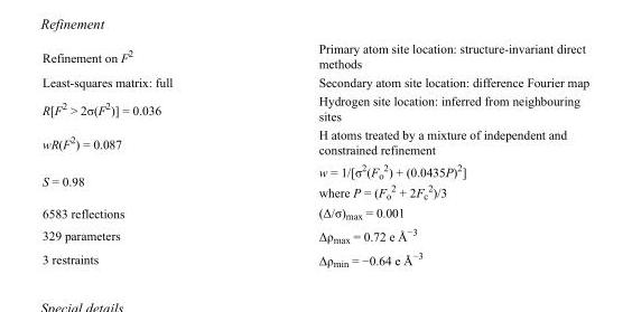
<table><tbody><tr><td>Refinement on F<sup>2</sup></td><td>Primary atom site location: structure-invariant direct methods</td></tr><tr><td>Least-squares matrix: full</td><td>Secondary atom site location: difference Fourier map</td></tr><tr><td>R[F<sup>2</sup> &gt; 2σ(F<sup>2</sup>)] = 0.036</td><td>Hydrogen site location: inferred from neighbouring sites</td></tr><tr><td>wR(F<sup>2</sup>) = 0.087</td><td>H atoms treated by a mixture of independent and constrained refinement</td></tr><tr><td>S = 0.98</td><td>w = 1/[σ<sup>2</sup>(F<sub>o</sub> <sup>2</sup>) + (0.0435P)<sup>2</sup>] where P = (F<sub>o</sub> <sup>2</sup> + 2F<sub>c</sub> <sup>2</sup>)/3</td></tr><tr><td>6583 reflections</td><td>(Δ/σ)<sub>max</sub> = 0.001</td></tr><tr><td>329 parameters</td><td>Δρ<sub>max</sub> = 0.72 e Å<sup>−3</sup></td></tr><tr><td>3 restraints</td><td>Δρ<sub>min</sub> = −0.64 e Å<sup>−3</sup></td></tr></tbody></table>